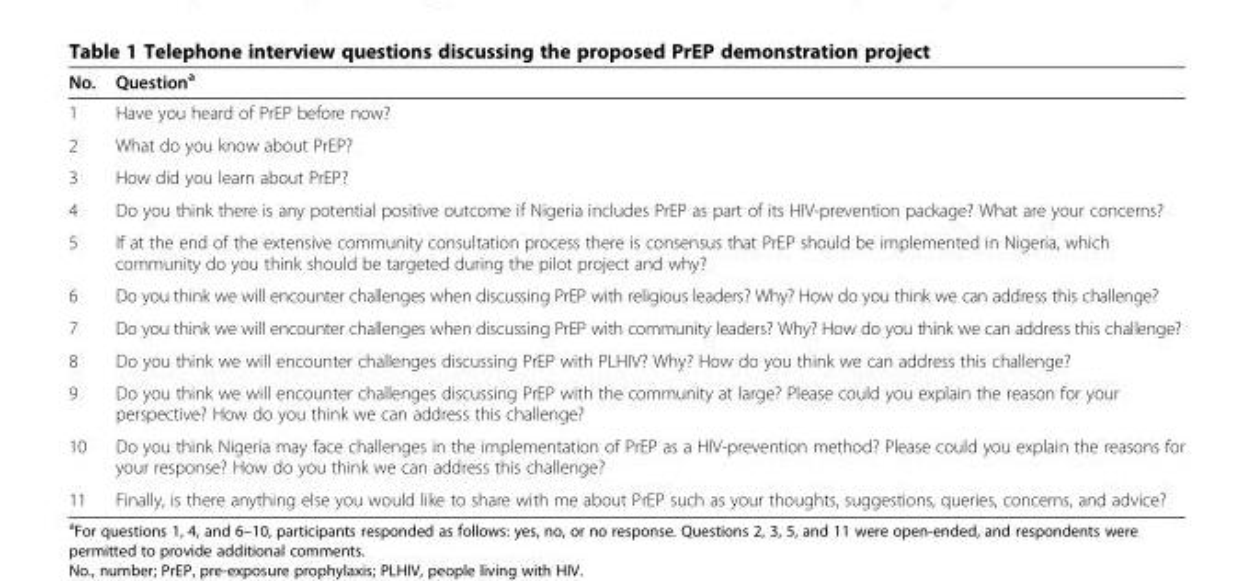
<table><thead><tr><td>No.</td><td>Question<sup>a</sup></td></tr></thead><tbody><tr><td>1</td><td>Have you heard of PrEP before now?</td></tr><tr><td>2</td><td>What do you know about PrEP?</td></tr><tr><td>3</td><td>How did you learn about PrEP?</td></tr><tr><td>4</td><td>Do you think there is any potential positive outcome if Nigeria includes PrEP as part of its HIV-prevention package? What are your concerns?</td></tr><tr><td>5</td><td>If at the end of the extensive community consultation process there is consensus that PrEP should be implemented in Nigeria, which community do you think should be targeted during the pilot project and why?</td></tr><tr><td>6</td><td>Do you think we will encounter challenges when discussing PrEP with religious leaders? Why? How do you think we can address this challenge?</td></tr><tr><td>7</td><td>Do you think we will encounter challenges when discussing PrEP with community leaders? Why? How do you think we can address this challenge?</td></tr><tr><td>8</td><td>Do you think we will encounter challenges discussing PrEP with PLHIV? Why? How do you think we can address this challenge?</td></tr><tr><td>9</td><td>Do you think we will encounter challenges discussing PrEP with the community at large? Please could you explain the reason for your perspective? How do you think we can address this challenge?</td></tr><tr><td>10</td><td>Do you think Nigeria may face challenges in the implementation of PrEP as a HIV-prevention method? Please could you explain the reasons for your response? How do you think we can address this challenge?</td></tr><tr><td>11</td><td>Finally, is there anything else you would like to share with me about PrEP such as your thoughts, suggestions, queries, concerns, and advice?</td></tr></tbody></table>